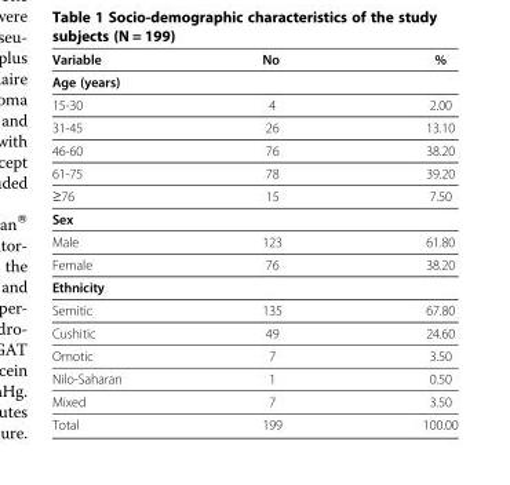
<table><tbody><tr><td>Variable</td><td>No</td><td>%</td></tr><tr><td colspan="3">Age (years)</td></tr><tr><td>15-30</td><td>4</td><td>2.00</td></tr><tr><td>31-45</td><td>26</td><td>13.10</td></tr><tr><td>46-60</td><td>76</td><td>38.20</td></tr><tr><td>61-75</td><td>78</td><td>39.20</td></tr><tr><td>≥76</td><td>15</td><td>7.50</td></tr><tr><td colspan="3">Sex</td></tr><tr><td>Male</td><td>123</td><td>61.80</td></tr><tr><td>Female</td><td>76</td><td>38.20</td></tr><tr><td colspan="3">Ethnicity</td></tr><tr><td>Semitic</td><td>135</td><td>67.80</td></tr><tr><td>Cushitic</td><td>49</td><td>24.60</td></tr><tr><td>Omotic</td><td>7</td><td>3.50</td></tr><tr><td>Nilo-Saharan</td><td>1</td><td>0.50</td></tr><tr><td>Mixed</td><td>7</td><td>3.50</td></tr><tr><td>Total</td><td>199</td><td>100.00</td></tr></tbody></table>